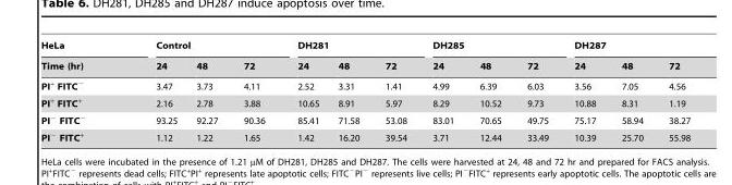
<table><thead><tr><td rowspan="2">HeLa Time (hr)</td><td colspan="3">Control</td><td colspan="3">DH281</td><td colspan="3">DH285</td><td colspan="3">DH287</td></tr><tr><td>24</td><td>48</td><td>72</td><td>24</td><td>48</td><td>72</td><td>24</td><td>48</td><td>72</td><td>24</td><td>48</td><td>72</td></tr></thead><tbody><tr><td>PI<sup>+</sup> FITC<sup>−</sup></td><td>3.47</td><td>3.73</td><td>4.11</td><td>2.52</td><td>3.31</td><td>1.41</td><td>4.99</td><td>6.39</td><td>6.03</td><td>3.56</td><td>7.05</td><td>4.56</td></tr><tr><td>PI<sup>+</sup> FITC<sup>+</sup></td><td>2.16</td><td>2.78</td><td>3.88</td><td>10.65</td><td>8.91</td><td>5.97</td><td>8.29</td><td>10.52</td><td>9.73</td><td>10.88</td><td>8.31</td><td>1.19</td></tr><tr><td>PI<sup>−</sup> FITC<sup>−</sup></td><td>93.25</td><td>92.27</td><td>90.36</td><td>85.41</td><td>71.58</td><td>53.08</td><td>83.01</td><td>70.65</td><td>49.75</td><td>75.17</td><td>58.94</td><td>38.27</td></tr><tr><td>PI<sup>−</sup> FITC<sup>+</sup></td><td>1.12</td><td>1.22</td><td>1.65</td><td>1.42</td><td>16.20</td><td>39.54</td><td>3.71</td><td>12.44</td><td>33.49</td><td>10.39</td><td>25.70</td><td>55.98</td></tr></tbody></table>